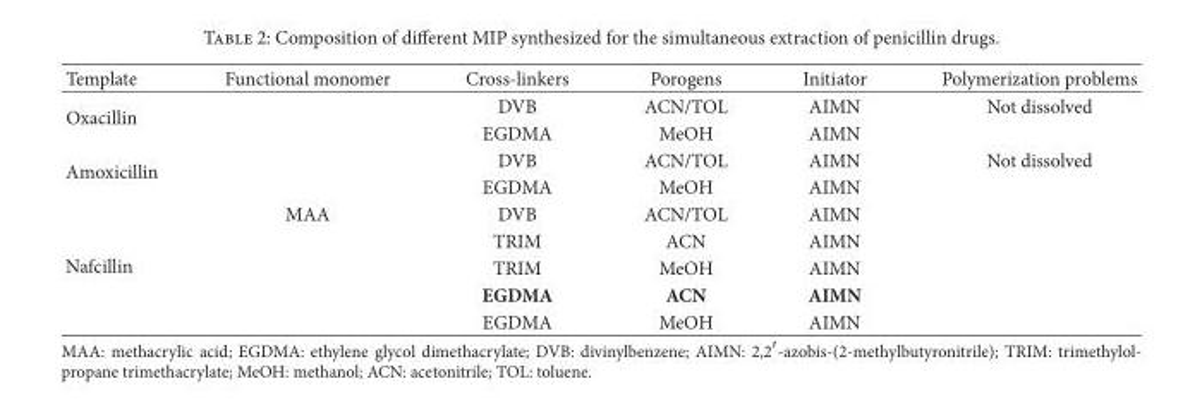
<table><thead><tr><td>Template</td><td>Functional monomer</td><td>Cross-linkers</td><td>Porogens</td><td>Initiator</td><td>Polymerization problems</td></tr></thead><tbody><tr><td rowspan="2">Oxacillin</td><td></td><td>DVB</td><td>ACN/TOL</td><td>AIMN</td><td>Not dissolved</td></tr><tr><td></td><td>EGDMA</td><td>MeOH</td><td>AIMN</td><td></td></tr><tr><td rowspan="2">Amoxicillin</td><td></td><td>DVB</td><td>ACN/TOL</td><td>AIMN</td><td>Not dissolved</td></tr><tr><td></td><td>EGDMA</td><td>MeOH</td><td>AIMN</td><td></td></tr><tr><td rowspan="5">Nafcillin</td><td>MAA</td><td>DVB</td><td>ACN/TOL</td><td>AIMN</td><td></td></tr><tr><td></td><td>TRIM</td><td>ACN</td><td>AIMN</td><td></td></tr><tr><td></td><td>TRIM</td><td>MeOH</td><td>AIMN</td><td></td></tr><tr><td></td><td>EGDMA</td><td>ACN</td><td>AIMN</td><td></td></tr><tr><td></td><td>EGDMA</td><td>MeOH</td><td>AIMN</td><td></td></tr></tbody></table>